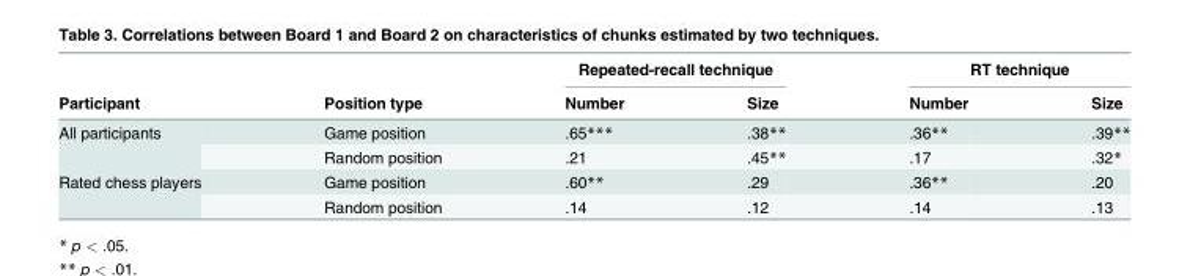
<table><thead><tr><td rowspan="2">Participant</td><td rowspan="2">Position type</td><td colspan="2">Repeated-recall technique</td><td colspan="2">RT technique</td></tr><tr><td>Number</td><td>Size</td><td>Number</td><td>Size</td></tr></thead><tbody><tr><td rowspan="2">All participants</td><td>Game position</td><td>.65***</td><td>.38**</td><td>.36**</td><td>.39**</td></tr><tr><td>Random position</td><td>.21</td><td>.45**</td><td>.17</td><td>.32*</td></tr><tr><td rowspan="2">Rated chess players</td><td>Game position</td><td>.60**</td><td>.29</td><td>.36**</td><td>.20</td></tr><tr><td>Random position</td><td>.14</td><td>.12</td><td>.14</td><td>.13</td></tr></tbody></table>